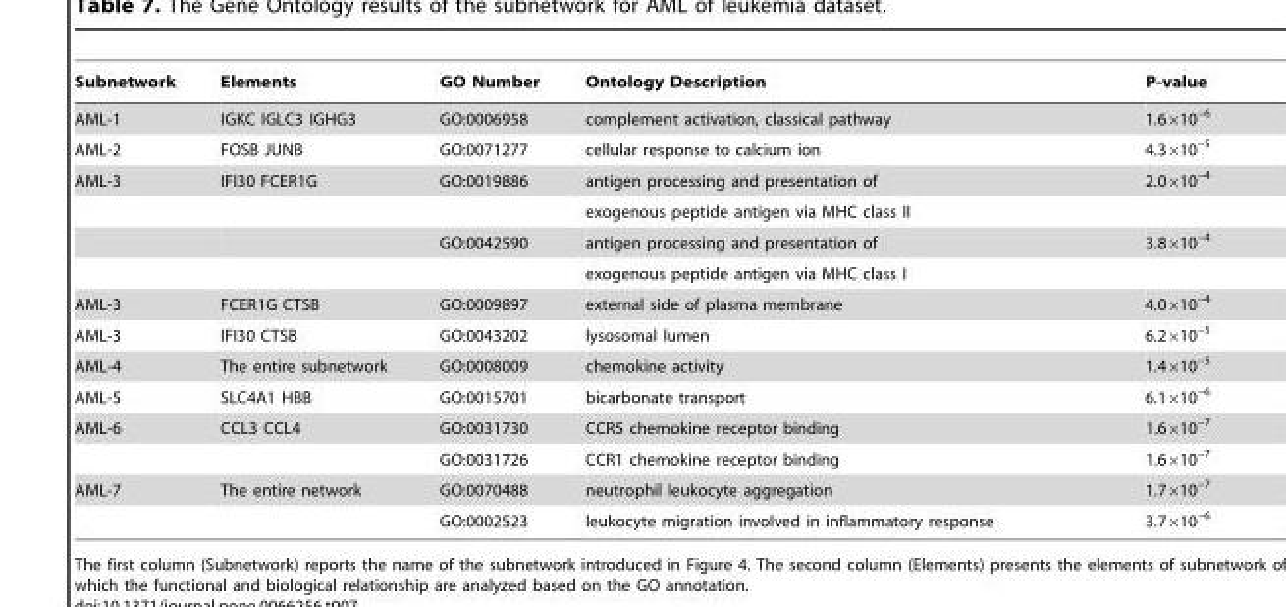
<table><thead><tr><td>Subnetwork</td><td>Elements</td><td>GO Number</td><td>Ontology Description</td><td>P-value</td></tr></thead><tbody><tr><td>AML-1</td><td>IGKC IGLC3 IGHG3</td><td>GO:0006958</td><td>complement activation, classical pathway</td><td>1.6×10<sup>–6</sup></td></tr><tr><td>AML-2</td><td>FOSB JUNB</td><td>GO:0071277</td><td>cellular response to calcium ion</td><td>4.3×10<sup>–5</sup></td></tr><tr><td rowspan="4">AML-3</td><td>IFI30 FCER1G</td><td>GO:0019886</td><td>antigen processing and presentation of</td><td>2.0×10<sup>–4</sup></td></tr><tr><td></td><td></td><td>exogenous peptide antigen via MHC class II</td><td></td></tr><tr><td></td><td>GO:0042590</td><td>antigen processing and presentation of</td><td>3.8×10<sup>–4</sup></td></tr><tr><td></td><td></td><td>exogenous peptide antigen via MHC class I</td><td></td></tr><tr><td>AML-3</td><td>FCER1G CTSB</td><td>GO:0009897</td><td>external side of plasma membrane</td><td>4.0×10<sup>–4</sup></td></tr><tr><td>AML-3</td><td>IFI30 CTSB</td><td>GO:0043202</td><td>lysosomal lumen</td><td>6.2×10<sup>–5</sup></td></tr><tr><td>AML-4</td><td>The entire subnetwork</td><td>GO:0008009</td><td>chemokine activity</td><td>1.4×10<sup>–5</sup></td></tr><tr><td>AML-5</td><td>SLC4A1 HBB</td><td>GO:0015701</td><td>bicarbonate transport</td><td>6.1×10<sup>–6</sup></td></tr><tr><td rowspan="2">AML-6</td><td>CCL3 CCL4</td><td>GO:0031730</td><td>CCR5 chemokine receptor binding</td><td>1.6×10<sup>–7</sup></td></tr><tr><td></td><td>GO:0031726</td><td>CCR1 chemokine receptor binding</td><td>1.6×10<sup>–7</sup></td></tr><tr><td rowspan="2">AML-7</td><td>The entire network</td><td>GO:0070488</td><td>neutrophil leukocyte aggregation</td><td>1.7×10<sup>–7</sup></td></tr><tr><td></td><td>GO:0002523</td><td>leukocyte migration involved in inflammatory response</td><td>3.7×10<sup>–6</sup></td></tr></tbody></table>